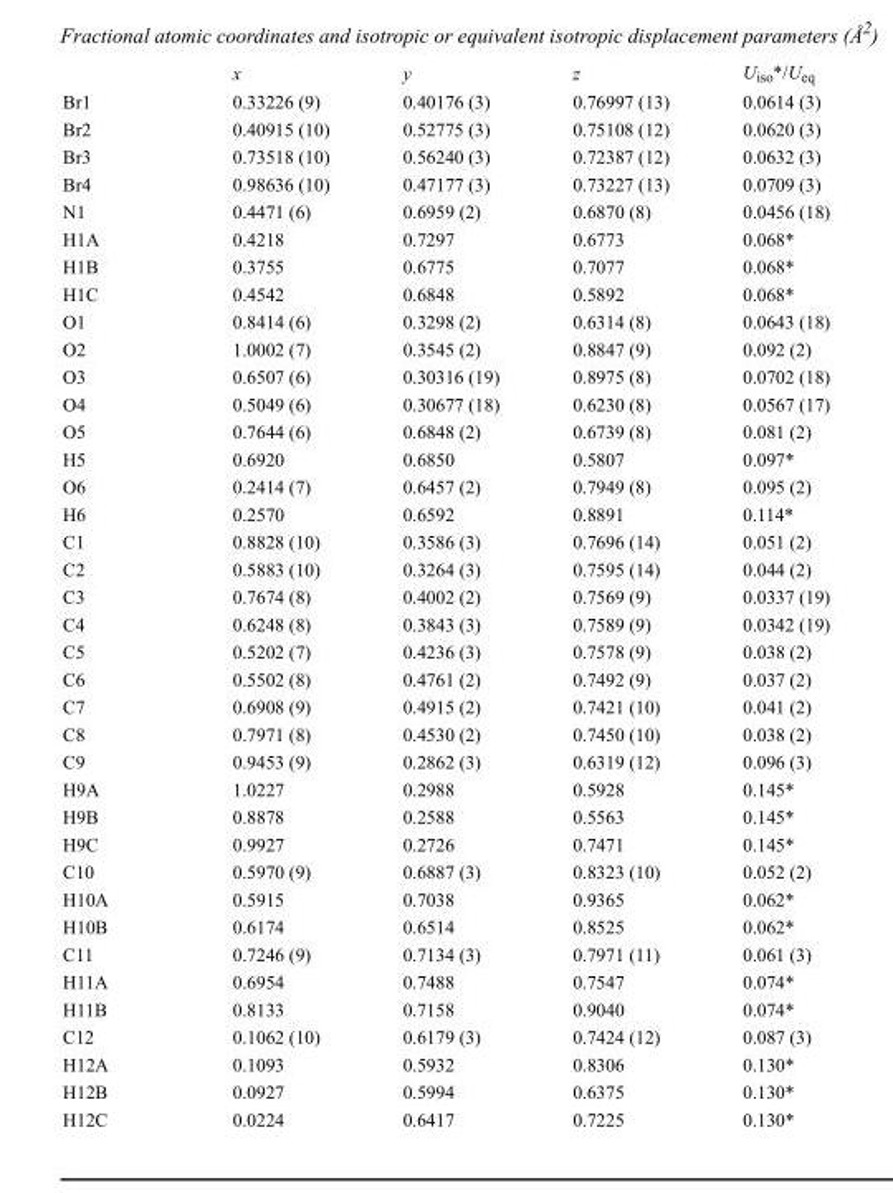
<table><thead><tr><td></td><td>x</td><td>y</td><td>z</td><td>U<sub>iso</sub>*/U<sub>eq</sub></td></tr></thead><tbody><tr><td>Br1</td><td>0.33226 (9)</td><td>0.40176 (3)</td><td>0.76997 (13)</td><td>0.0614 (3)</td></tr><tr><td>Br2</td><td>0.40915 (10)</td><td>0.52775 (3)</td><td>0.75108 (12)</td><td>0.0620 (3)</td></tr><tr><td>Br3</td><td>0.73518 (10)</td><td>0.56240 (3)</td><td>0.72387 (12)</td><td>0.0632 (3)</td></tr><tr><td>Br4</td><td>0.98636 (10)</td><td>0.47177 (3)</td><td>0.73227 (13)</td><td>0.0709 (3)</td></tr><tr><td>N1</td><td>0.4471 (6)</td><td>0.6959 (2)</td><td>0.6870 (8)</td><td>0.0456 (18)</td></tr><tr><td>H1A</td><td>0.4218</td><td>0.7297</td><td>0.6773</td><td>0.068*</td></tr><tr><td>H1B</td><td>0.3755</td><td>0.6775</td><td>0.7077</td><td>0.068*</td></tr><tr><td>H1C</td><td>0.4542</td><td>0.6848</td><td>0.5892</td><td>0.068*</td></tr><tr><td>O1</td><td>0.8414 (6)</td><td>0.3298 (2)</td><td>0.6314 (8)</td><td>0.0643 (18)</td></tr><tr><td>O2</td><td>1.0002 (7)</td><td>0.3545 (2)</td><td>0.8847 (9)</td><td>0.092 (2)</td></tr><tr><td>O3</td><td>0.6507 (6)</td><td>0.30316 (19)</td><td>0.8975 (8)</td><td>0.0702 (18)</td></tr><tr><td>O4</td><td>0.5049 (6)</td><td>0.30677 (18)</td><td>0.6230 (8)</td><td>0.0567 (17)</td></tr><tr><td>O5</td><td>0.7644 (6)</td><td>0.6848 (2)</td><td>0.6739 (8)</td><td>0.081 (2)</td></tr><tr><td>H5</td><td>0.6920</td><td>0.6850</td><td>0.5807</td><td>0.097*</td></tr><tr><td>O6</td><td>0.2414 (7)</td><td>0.6457 (2)</td><td>0.7949 (8)</td><td>0.095 (2)</td></tr><tr><td>H6</td><td>0.2570</td><td>0.6592</td><td>0.8891</td><td>0.114*</td></tr><tr><td>C1</td><td>0.8828 (10)</td><td>0.3586 (3)</td><td>0.7696 (14)</td><td>0.051 (2)</td></tr><tr><td>C2</td><td>0.5883 (10)</td><td>0.3264 (3)</td><td>0.7595 (14)</td><td>0.044 (2)</td></tr><tr><td>C3</td><td>0.7674 (8)</td><td>0.4002 (2)</td><td>0.7569 (9)</td><td>0.0337 (19)</td></tr><tr><td>C4</td><td>0.6248 (8)</td><td>0.3843 (3)</td><td>0.7589 (9)</td><td>0.0342 (19)</td></tr><tr><td>C5</td><td>0.5202 (7)</td><td>0.4236 (3)</td><td>0.7578 (9)</td><td>0.038 (2)</td></tr><tr><td>C6</td><td>0.5502 (8)</td><td>0.4761 (2)</td><td>0.7492 (9)</td><td>0.037 (2)</td></tr><tr><td>C7</td><td>0.6908 (9)</td><td>0.4915 (2)</td><td>0.7421 (10)</td><td>0.041 (2)</td></tr><tr><td>C8</td><td>0.7971 (8)</td><td>0.4530 (2)</td><td>0.7450 (10)</td><td>0.038 (2)</td></tr><tr><td>C9</td><td>0.9453 (9)</td><td>0.2862 (3)</td><td>0.6319 (12)</td><td>0.096 (3)</td></tr><tr><td>H9A</td><td>1.0227</td><td>0.2988</td><td>0.5928</td><td>0.145*</td></tr><tr><td>H9B</td><td>0.8878</td><td>0.2588</td><td>0.5563</td><td>0.145*</td></tr><tr><td>H9C</td><td>0.9927</td><td>0.2726</td><td>0.7471</td><td>0.145*</td></tr><tr><td>C10</td><td>0.5970 (9)</td><td>0.6887 (3)</td><td>0.8323 (10)</td><td>0.052 (2)</td></tr><tr><td>H10A</td><td>0.5915</td><td>0.7038</td><td>0.9365</td><td>0.062*</td></tr><tr><td>H10B</td><td>0.6174</td><td>0.6514</td><td>0.8525</td><td>0.062*</td></tr><tr><td>C11</td><td>0.7246 (9)</td><td>0.7134 (3)</td><td>0.7971 (11)</td><td>0.061 (3)</td></tr><tr><td>H11A</td><td>0.6954</td><td>0.7488</td><td>0.7547</td><td>0.074*</td></tr><tr><td>H11B</td><td>0.8133</td><td>0.7158</td><td>0.9040</td><td>0.074*</td></tr><tr><td>C12</td><td>0.1062 (10)</td><td>0.6179 (3)</td><td>0.7424 (12)</td><td>0.087 (3)</td></tr><tr><td>H12A</td><td>0.1093</td><td>0.5932</td><td>0.8306</td><td>0.130*</td></tr><tr><td>H12B</td><td>0.0927</td><td>0.5994</td><td>0.6375</td><td>0.130*</td></tr><tr><td>H12C</td><td>0.0224</td><td>0.6417</td><td>0.7225</td><td>0.130*</td></tr></tbody></table>